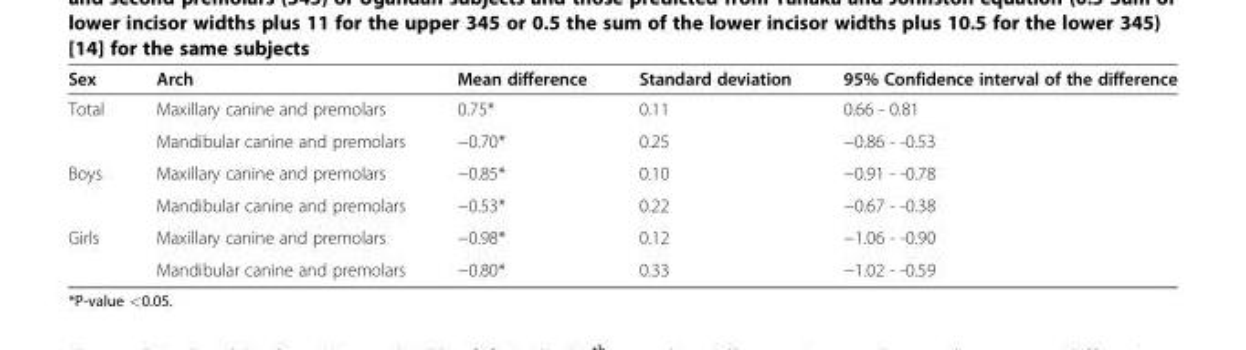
<table><thead><tr><td>Sex</td><td>Arch</td><td>Mean difference</td><td>Standard deviation</td><td>95% Confidence interval of the difference</td></tr></thead><tbody><tr><td rowspan="2">Total</td><td>Maxillary canine and premolars</td><td>0.75*</td><td>0.11</td><td>0.66 - 0.81</td></tr><tr><td>Mandibular canine and premolars</td><td>−0.70*</td><td>0.25</td><td>−0.86 - -0.53</td></tr><tr><td rowspan="2">Boys</td><td>Maxillary canine and premolars</td><td>−0.85*</td><td>0.10</td><td>−0.91 - -0.78</td></tr><tr><td>Mandibular canine and premolars</td><td>−0.53*</td><td>0.22</td><td>−0.67 - -0.38</td></tr><tr><td rowspan="2">Girls</td><td>Maxillary canine and premolars</td><td>−0.98*</td><td>0.12</td><td>−1.06 - -0.90</td></tr><tr><td>Mandibular canine and premolars</td><td>−0.80*</td><td>0.33</td><td>−1.02 - -0.59</td></tr></tbody></table>